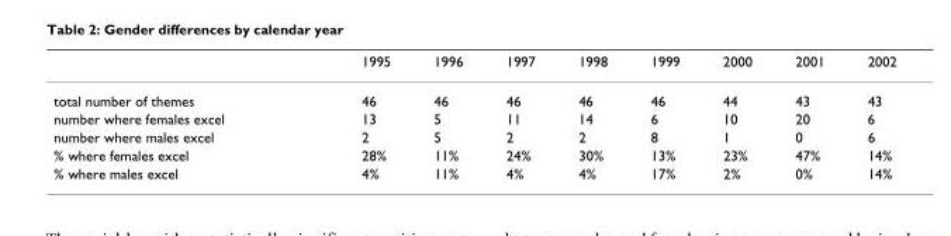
<table><thead><tr><td></td><td>1995</td><td>1996</td><td>1997</td><td>1998</td><td>1999</td><td>2000</td><td>2001</td><td>2002</td></tr></thead><tbody><tr><td>total number of themes</td><td>46</td><td>46</td><td>46</td><td>46</td><td>46</td><td>44</td><td>43</td><td>43</td></tr><tr><td>number where females excel</td><td>13</td><td>5</td><td>11</td><td>14</td><td>6</td><td>10</td><td>20</td><td>6</td></tr><tr><td>number where males excel</td><td>2</td><td>5</td><td>2</td><td>2</td><td>8</td><td>1</td><td>0</td><td>6</td></tr><tr><td>% where females excel</td><td>28%</td><td>11%</td><td>24%</td><td>30%</td><td>13%</td><td>23%</td><td>47%</td><td>14%</td></tr><tr><td>% where males excel</td><td>4%</td><td>11%</td><td>4%</td><td>4%</td><td>17%</td><td>2%</td><td>0%</td><td>14%</td></tr></tbody></table>